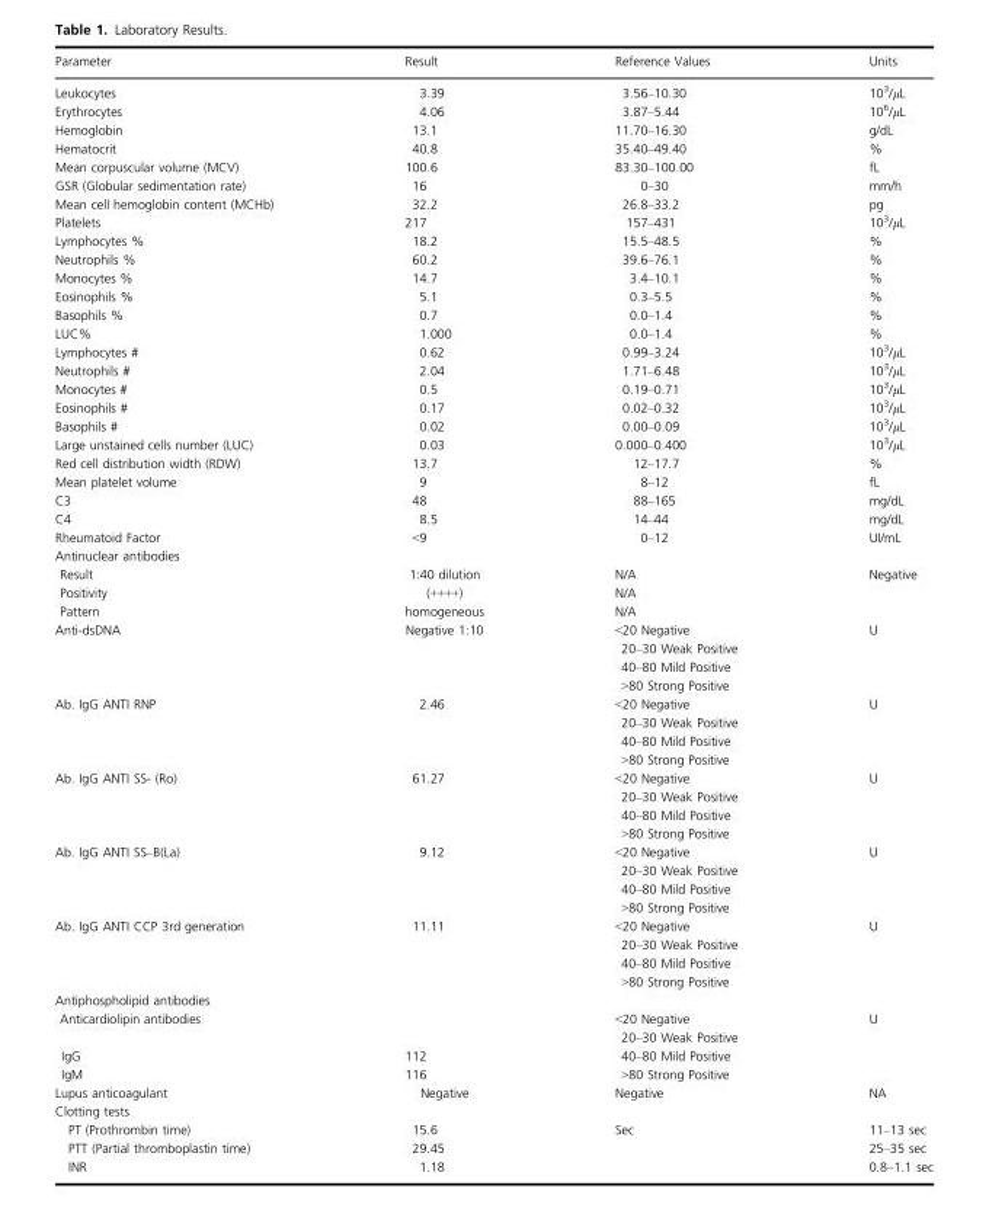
<table><thead><tr><td>Parameter</td><td>Result</td><td>Reference Values</td><td>Units</td></tr></thead><tbody><tr><td>Leukocytes</td><td>3.39</td><td>3.56–10.30</td><td>10<sup>3</sup>/μL</td></tr><tr><td>Erythrocytes</td><td>4.06</td><td>3.87–5.44</td><td>10<sup>6</sup>/μL</td></tr><tr><td>Hemoglobin</td><td>13.1</td><td>11.70–16.30</td><td>g/dL</td></tr><tr><td>Hematocrit</td><td>40.8</td><td>35.40–49.40</td><td>%</td></tr><tr><td>Mean corpuscular volume (MCV)</td><td>100.6</td><td>83.30–100.00</td><td>fL</td></tr><tr><td>GSR (Globular sedimentation rate)</td><td>16</td><td>0–30</td><td>mm/h</td></tr><tr><td>Mean cell hemoglobin content (MCHb)</td><td>32.2</td><td>26.8–33.2</td><td>pg</td></tr><tr><td>Platelets</td><td>217</td><td>157–431</td><td>10<sup>3</sup>/μL</td></tr><tr><td>Lymphocytes %</td><td>18.2</td><td>15.5–48.5</td><td>%</td></tr><tr><td>Neutrophils %</td><td>60.2</td><td>39.6–76.1</td><td>%</td></tr><tr><td>Monocytes %</td><td>14.7</td><td>3.4–10.1</td><td>%</td></tr><tr><td>Eosinophils %</td><td>5.1</td><td>0.3–5.5</td><td>%</td></tr><tr><td>Basophils %</td><td>0.7</td><td>0.0–1.4</td><td>%</td></tr><tr><td>LUC%</td><td>1.000</td><td>0.0–1.4</td><td>%</td></tr><tr><td>Lymphocytes #</td><td>0.62</td><td>0.99–3.24</td><td>10<sup>3</sup>/μL</td></tr><tr><td>Neutrophils #</td><td>2.04</td><td>1.71–6.48</td><td>10<sup>3</sup>/μL</td></tr><tr><td>Monocytes #</td><td>0.5</td><td>0.19–0.71</td><td>10<sup>3</sup>/μL</td></tr><tr><td>Eosinophils #</td><td>0.17</td><td>0.02–0.32</td><td>10<sup>3</sup>/μL</td></tr><tr><td>Basophils #</td><td>0.02</td><td>0.00–0.09</td><td>10<sup>3</sup>/μL</td></tr><tr><td>Large unstained cells number (LUC)</td><td>0.03</td><td>0.000–0.400</td><td>10<sup>3</sup>/μL</td></tr><tr><td>Red cell distribution width (RDW)</td><td>13.7</td><td>12–17.7</td><td>%</td></tr><tr><td>Mean platelet volume</td><td>9</td><td>8–12</td><td>fL</td></tr><tr><td>C3</td><td>48</td><td>88–165</td><td>mg/dL</td></tr><tr><td>C4</td><td>8.5</td><td>14–44</td><td>mg/dL</td></tr><tr><td>Rheumatoid Factor</td><td>&lt;9</td><td>0–12</td><td>UI/mL</td></tr><tr><td colspan="4">Antinuclear antibodies</td></tr><tr><td>Result</td><td>1:40 dilution</td><td>N/A</td><td>Negative</td></tr><tr><td>Positivity</td><td>(++++)</td><td>N/A</td><td></td></tr><tr><td>Pattern</td><td>homogeneous</td><td>N/A</td><td></td></tr><tr><td>Anti-dsDNA</td><td>Negative 1:10</td><td>&lt;20 Negative 20–30 Weak Positive 40–80 Mild Positive &gt;80 Strong Positive</td><td>U</td></tr><tr><td>Ab. IgG ANTI RNP</td><td>2.46</td><td>&lt;20 Negative 20–30 Weak Positive 40–80 Mild Positive &gt;80 Strong Positive</td><td>U</td></tr><tr><td>Ab. IgG ANTI SS- (Ro)</td><td>61.27</td><td>&lt;20 Negative 20–30 Weak Positive 40–80 Mild Positive &gt;80 Strong Positive</td><td>U</td></tr><tr><td>Ab. IgG ANTI SS–B(La)</td><td>9.12</td><td>&lt;20 Negative 20–30 Weak Positive 40–80 Mild Positive &gt;80 Strong Positive</td><td>U</td></tr><tr><td>Ab. IgG ANTI CCP 3rd generation</td><td>11.11</td><td>&lt;20 Negative 20–30 Weak Positive 40–80 Mild Positive &gt;80 Strong Positive</td><td>U</td></tr><tr><td colspan="4">Antiphospholipid antibodies</td></tr><tr><td>Anticardiolipin antibodies IgG IgM</td><td>112 116</td><td>&lt;20 Negative 20–30 Weak Positive 40–80 Mild Positive &gt;80 Strong Positive</td><td>U</td></tr><tr><td>Lupus anticoagulant</td><td>Negative</td><td>Negative</td><td>NA</td></tr><tr><td colspan="4">Clotting tests</td></tr><tr><td>PT (Prothrombin time)</td><td>15.6</td><td rowspan="3">Sec</td><td>11–13 sec</td></tr><tr><td>PTT (Partial thromboplastin time)</td><td>29.45</td><td>25–35 sec</td></tr><tr><td>INR</td><td>1.18</td><td>0.8–1.1 sec</td></tr></tbody></table>